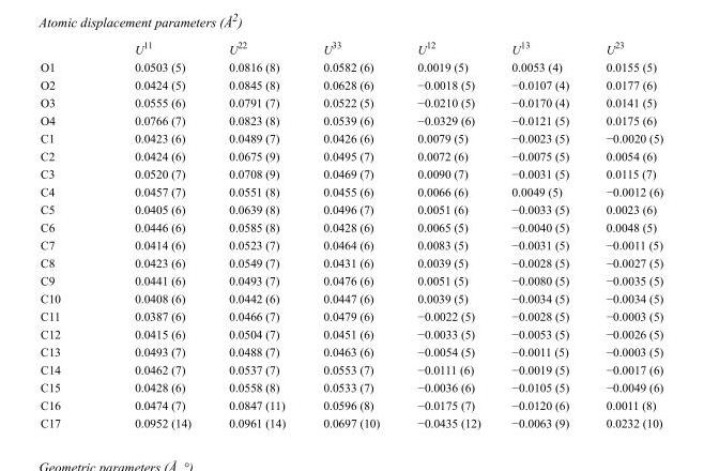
<table><thead><tr><td></td><td>U<sup>11</sup></td><td>U<sup>22</sup></td><td>U<sup>33</sup></td><td>U<sup>12</sup></td><td>U<sup>13</sup></td><td>U<sup>23</sup></td></tr></thead><tbody><tr><td>O1</td><td>0.0503 (5)</td><td>0.0816 (8)</td><td>0.0582 (6)</td><td>0.0019 (5)</td><td>0.0053 (4)</td><td>0.0155 (5)</td></tr><tr><td>O2</td><td>0.0424 (5)</td><td>0.0845 (8)</td><td>0.0628 (6)</td><td>−0.0018 (5)</td><td>−0.0107 (4)</td><td>0.0177 (6)</td></tr><tr><td>O3</td><td>0.0555 (6)</td><td>0.0791 (7)</td><td>0.0522 (5)</td><td>−0.0210 (5)</td><td>−0.0170 (4)</td><td>0.0141 (5)</td></tr><tr><td>O4</td><td>0.0766 (7)</td><td>0.0823 (8)</td><td>0.0539 (6)</td><td>−0.0329 (6)</td><td>−0.0121 (5)</td><td>0.0175 (6)</td></tr><tr><td>C1</td><td>0.0423 (6)</td><td>0.0489 (7)</td><td>0.0426 (6)</td><td>0.0079 (5)</td><td>−0.0023 (5)</td><td>−0.0020 (5)</td></tr><tr><td>C2</td><td>0.0424 (6)</td><td>0.0675 (9)</td><td>0.0495 (7)</td><td>0.0072 (6)</td><td>−0.0075 (5)</td><td>0.0054 (6)</td></tr><tr><td>C3</td><td>0.0520 (7)</td><td>0.0708 (9)</td><td>0.0469 (7)</td><td>0.0090 (7)</td><td>−0.0031 (5)</td><td>0.0115 (7)</td></tr><tr><td>C4</td><td>0.0457 (7)</td><td>0.0551 (8)</td><td>0.0455 (6)</td><td>0.0066 (6)</td><td>0.0049 (5)</td><td>−0.0012 (6)</td></tr><tr><td>C5</td><td>0.0405 (6)</td><td>0.0639 (8)</td><td>0.0496 (7)</td><td>0.0051 (6)</td><td>−0.0033 (5)</td><td>0.0023 (6)</td></tr><tr><td>C6</td><td>0.0446 (6)</td><td>0.0585 (8)</td><td>0.0428 (6)</td><td>0.0065 (5)</td><td>−0.0040 (5)</td><td>0.0048 (5)</td></tr><tr><td>C7</td><td>0.0414 (6)</td><td>0.0523 (7)</td><td>0.0464 (6)</td><td>0.0083 (5)</td><td>−0.0031 (5)</td><td>−0.0011 (5)</td></tr><tr><td>C8</td><td>0.0423 (6)</td><td>0.0549 (7)</td><td>0.0431 (6)</td><td>0.0039 (5)</td><td>−0.0028 (5)</td><td>−0.0027 (5)</td></tr><tr><td>C9</td><td>0.0441 (6)</td><td>0.0493 (7)</td><td>0.0476 (6)</td><td>0.0051 (5)</td><td>−0.0080 (5)</td><td>−0.0035 (5)</td></tr><tr><td>C10</td><td>0.0408 (6)</td><td>0.0442 (6)</td><td>0.0447 (6)</td><td>0.0039 (5)</td><td>−0.0034 (5)</td><td>−0.0034 (5)</td></tr><tr><td>C11</td><td>0.0387 (6)</td><td>0.0466 (7)</td><td>0.0479 (6)</td><td>−0.0022 (5)</td><td>−0.0028 (5)</td><td>−0.0003 (5)</td></tr><tr><td>C12</td><td>0.0415 (6)</td><td>0.0504 (7)</td><td>0.0451 (6)</td><td>−0.0033 (5)</td><td>−0.0053 (5)</td><td>−0.0026 (5)</td></tr><tr><td>C13</td><td>0.0493 (7)</td><td>0.0488 (7)</td><td>0.0463 (6)</td><td>−0.0054 (5)</td><td>−0.0011 (5)</td><td>−0.0003 (5)</td></tr><tr><td>C14</td><td>0.0462 (7)</td><td>0.0537 (7)</td><td>0.0553 (7)</td><td>−0.0111 (6)</td><td>−0.0019 (5)</td><td>−0.0017 (6)</td></tr><tr><td>C15</td><td>0.0428 (6)</td><td>0.0558 (8)</td><td>0.0533 (7)</td><td>−0.0036 (6)</td><td>−0.0105 (5)</td><td>−0.0049 (6)</td></tr><tr><td>C16</td><td>0.0474 (7)</td><td>0.0847 (11)</td><td>0.0596 (8)</td><td>−0.0175 (7)</td><td>−0.0120 (6)</td><td>0.0011 (8)</td></tr><tr><td>C17</td><td>0.0952 (14)</td><td>0.0961 (14)</td><td>0.0697 (10)</td><td>−0.0435 (12)</td><td>−0.0063 (9)</td><td>0.0232 (10)</td></tr></tbody></table>